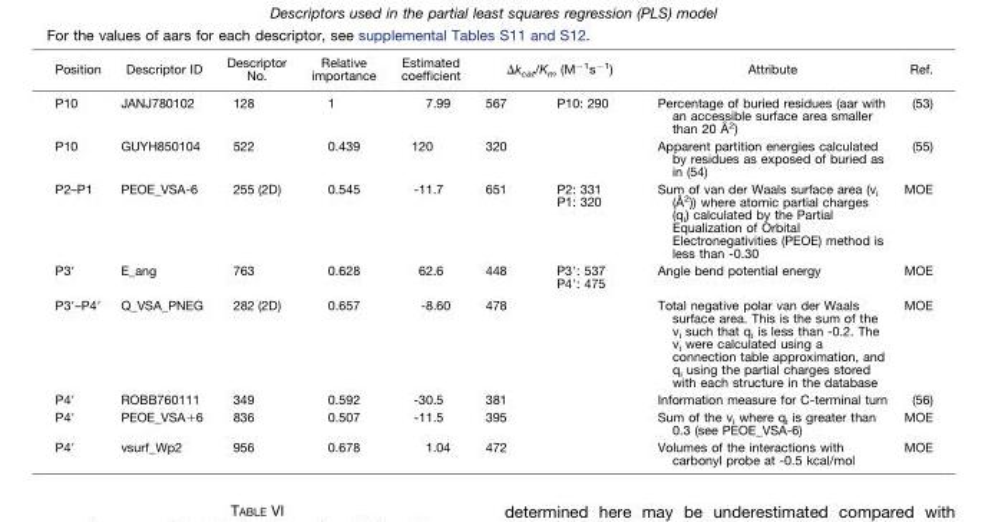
<table><thead><tr><td rowspan="2">Position P10</td><td rowspan="2">Descriptor ID JANJ780102</td><td rowspan="2">Descriptor No. 128</td><td rowspan="2">Relative importance 1</td><td rowspan="2">Estimated coefficient 7.99</td><td colspan="2">Δk<sub>cat</sub>/K<sub>m</sub> (M<sup>−1</sup>s<sup>−1</sup>)</td><td rowspan="2">Attribute Percentage of buried residues (aar with an accessible surface area smaller than 20 Å<sup>2</sup>)</td><td rowspan="2">Ref. (53)</td></tr><tr><td>567</td><td>P10: 290</td></tr></thead><tbody><tr><td>P10</td><td>GUYH850104</td><td>522</td><td>0.439</td><td>120</td><td>320</td><td></td><td>Apparent partition energies calculated by residues as exposed of buried as in (54)</td><td>(55)</td></tr><tr><td>P2–P1</td><td>PEOE_VSA-6</td><td>255 (2D)</td><td>0.545</td><td>-11.7</td><td>651</td><td>P2: 331 P1: 320</td><td>Sum of van der Waals surface area (v<sub>i</sub> (Å<sup>2</sup>)) where atomic partial charges (q<sub>i</sub>) calculated by the Partial Equalization of Orbital Electronegativities (PEOE) method is less than -0.30</td><td>MOE</td></tr><tr><td>P3′</td><td>E_ang</td><td>763</td><td>0.628</td><td>62.6</td><td>448</td><td>P3′: 537 P4′: 475</td><td>Angle bend potential energy</td><td>MOE</td></tr><tr><td>P3′–P4′</td><td>Q_VSA_PNEG</td><td>282 (2D)</td><td>0.657</td><td>-8.60</td><td>478</td><td></td><td>Total negative polar van der Waals surface area. This is the sum of the v<sub>i</sub> such that q<sub>i</sub> is less than -0.2. The v<sub>i</sub> were calculated using a connection table approximation, and q<sub>i</sub> using the partial charges stored with each structure in the database</td><td>MOE</td></tr><tr><td>P4′</td><td>ROBB760111</td><td>349</td><td>0.592</td><td>-30.5</td><td>381</td><td></td><td>Information measure for C-terminal turn</td><td>(56)</td></tr><tr><td>P4′</td><td>PEOE_VSA+6</td><td>836</td><td>0.507</td><td>-11.5</td><td>395</td><td></td><td>Sum of the v<sub>i</sub> where q<sub>i</sub> is greater than 0.3 (see PEOE_VSA-6)</td><td>MOE</td></tr><tr><td>P4′</td><td>vsurf_Wp2</td><td>956</td><td>0.678</td><td>1.04</td><td>472</td><td></td><td>Volumes of the interactions with carbonyl probe at -0.5 kcal/mol</td><td>MOE</td></tr></tbody></table>